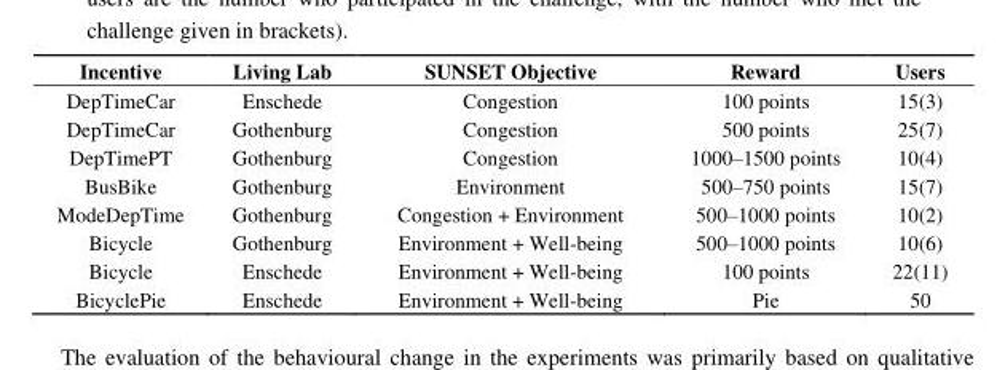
<table><thead><tr><td>Incentive</td><td>Living Lab</td><td>SUNSET Objective</td><td>Reward</td><td>Users</td></tr></thead><tbody><tr><td>DepTimeCar</td><td>Enschede</td><td>Congestion</td><td>100 points</td><td>15(3)</td></tr><tr><td>DepTimeCar</td><td>Gothenburg</td><td>Congestion</td><td>500 points</td><td>25(7)</td></tr><tr><td>DepTimePT</td><td>Gothenburg</td><td>Congestion</td><td>1000–1500 points</td><td>10(4)</td></tr><tr><td>BusBike</td><td>Gothenburg</td><td>Environment</td><td>500–750 points</td><td>15(7)</td></tr><tr><td>ModeDepTime</td><td>Gothenburg</td><td>Congestion + Environment</td><td>500–1000 points</td><td>10(2)</td></tr><tr><td>Bicycle</td><td>Gothenburg</td><td>Environment + Well-being</td><td>500–1000 points</td><td>10(6)</td></tr><tr><td>Bicycle</td><td>Enschede</td><td>Environment + Well-being</td><td>100 points</td><td>22(11)</td></tr><tr><td>BicyclePie</td><td>Enschede</td><td>Environment + Well-being</td><td>Pie</td><td>50</td></tr></tbody></table>